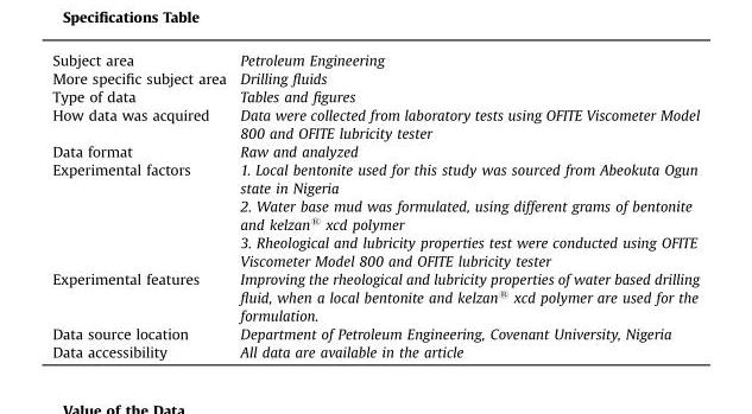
<table><tbody><tr><td>Subject area</td><td>Petroleum Engineering</td></tr><tr><td>More specific subject area</td><td>Drilling fluids</td></tr><tr><td>Type of data</td><td>Tables and figures</td></tr><tr><td>How data was acquired</td><td>Data were collected from laboratory tests using OFITE Viscometer Model 800 and OFITE lubricity tester</td></tr><tr><td>Data format</td><td>Raw and analyzed</td></tr><tr><td rowspan="3">Experimental factors</td><td>1. Local bentonite used for this study was sourced from Abeokuta Ogun state in Nigeria</td></tr><tr><td>2. Water base mud was formulated, using different grams of bentonite and kelzan® xcd polymer</td></tr><tr><td>3. Rheological and lubricity properties test were conducted using OFITE Viscometer Model 800 and OFITE lubricity tester</td></tr><tr><td>Experimental features</td><td>Improving the rheological and lubricity properties of water based drilling fluid, when a local bentonite and kelzan® xcd polymer are used for the formulation.</td></tr><tr><td>Data source location</td><td>Department of Petroleum Engineering, Covenant University, Nigeria</td></tr><tr><td>Data accessibility</td><td>All data are available in the article</td></tr></tbody></table>